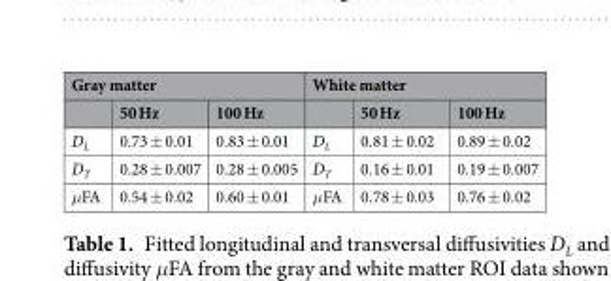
<table><thead><tr><td colspan="3">Gray matter</td><td colspan="3">White matter</td></tr><tr><td></td><td>50 Hz</td><td>100 Hz</td><td></td><td>50 Hz</td><td>100 Hz</td></tr></thead><tbody><tr><td>D<sub>L</sub></td><td>0.73 ± 0.01</td><td>0.83 ± 0.01</td><td>D<sub>L</sub></td><td>0.81 ± 0.02</td><td>0.89 ± 0.02</td></tr><tr><td>D<sub>T</sub></td><td>0.28 ± 0.007</td><td>0.28 ± 0.005</td><td>D<sub>T</sub></td><td>0.16 ± 0.01</td><td>0.19 ± 0.007</td></tr><tr><td>μFA</td><td>0.54 ± 0.02</td><td>0.60 ± 0.01</td><td>μFA</td><td>0.78 ± 0.03</td><td>0.76 ± 0.02</td></tr></tbody></table>